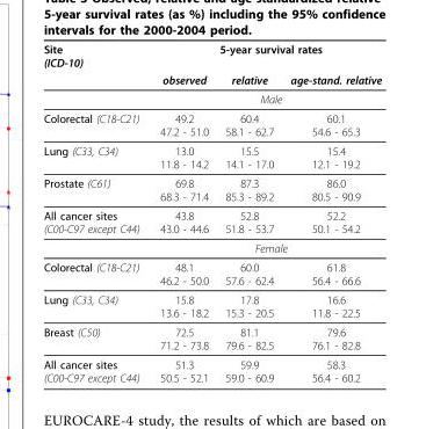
<table><thead><tr><td rowspan="2">Site (ICD-10)</td><td colspan="3">5-year survival rates</td></tr><tr><td>observed</td><td>relative</td><td>age-stand. relative</td></tr></thead><tbody><tr><td></td><td colspan="3">Male</td></tr><tr><td>Colorectal (C18-C21)</td><td>49.2 47.2 - 51.0</td><td>60.4 58.1 - 62.7</td><td>60.1 54.6 - 65.3</td></tr><tr><td>Lung (C33, C34)</td><td>13.0 11.8 - 14.2</td><td>15.5 14.1 - 17.0</td><td>15.4 12.1 - 19.2</td></tr><tr><td>Prostate (C61)</td><td>69.8 68.3 - 71.4</td><td>87.3 85.3 - 89.2</td><td>86.0 80.5 - 90.9</td></tr><tr><td rowspan="2">All cancer sites (C00-C97 except C44)</td><td>43.8 43.0 - 44.6</td><td>52.8 51.8 - 53.7</td><td>52.2 50.1 - 54.2</td></tr><tr><td colspan="3">Female</td></tr><tr><td>Colorectal (C18-C21)</td><td>48.1 46.2 - 50.0</td><td>60.0 57.6 - 62.4</td><td>61.8 56.4 - 66.6</td></tr><tr><td>Lung (C33, C34)</td><td>15.8 13.6 - 18.2</td><td>17.8 15.3 - 20.5</td><td>16.6 11.8 - 22.5</td></tr><tr><td>Breast (C50)</td><td>72.5 71.2 - 73.8</td><td>81.1 79.6 - 82.5</td><td>79.6 76.1 - 82.8</td></tr><tr><td>All cancer sites (C00-C97 except C44)</td><td>51.3 50.5 - 52.1</td><td>59.9 59.0 - 60.9</td><td>58.3 56.4 - 60.2</td></tr></tbody></table>